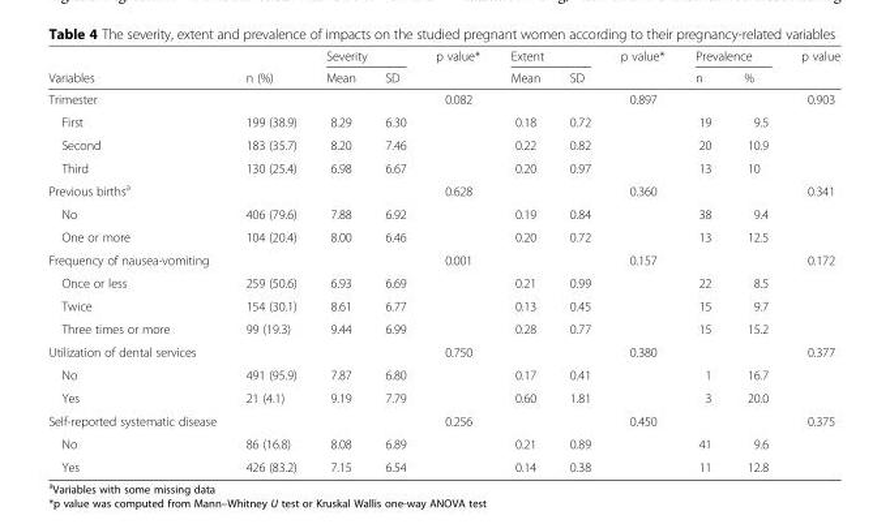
<table><thead><tr><td rowspan="2">Variables</td><td rowspan="2">n (%)</td><td colspan="2">Severity</td><td rowspan="2">p value*</td><td colspan="2">Extent</td><td rowspan="2">p value*</td><td colspan="2">Prevalence</td><td rowspan="2">p value</td></tr><tr><td>Mean</td><td>SD</td><td>Mean</td><td>SD</td><td>n</td><td>%</td></tr></thead><tbody><tr><td>Trimester</td><td></td><td></td><td></td><td>0.082</td><td></td><td></td><td>0.897</td><td></td><td></td><td>0.903</td></tr><tr><td>First</td><td>199 (38.9)</td><td>8.29</td><td>6.30</td><td></td><td>0.18</td><td>0.72</td><td></td><td>19</td><td>9.5</td><td></td></tr><tr><td>Second</td><td>183 (35.7)</td><td>8.20</td><td>7.46</td><td></td><td>0.22</td><td>0.82</td><td></td><td>20</td><td>10.9</td><td></td></tr><tr><td>Third</td><td>130 (25.4)</td><td>6.98</td><td>6.67</td><td></td><td>0.20</td><td>0.97</td><td></td><td>13</td><td>10</td><td></td></tr><tr><td>Previous births<sup>a</sup></td><td></td><td></td><td></td><td>0.628</td><td></td><td></td><td>0.360</td><td></td><td></td><td>0.341</td></tr><tr><td>No</td><td>406 (79.6)</td><td>7.88</td><td>6.92</td><td></td><td>0.19</td><td>0.84</td><td></td><td>38</td><td>9.4</td><td></td></tr><tr><td>One or more</td><td>104 (20.4)</td><td>8.00</td><td>6.46</td><td></td><td>0.20</td><td>0.72</td><td></td><td>13</td><td>12.5</td><td></td></tr><tr><td>Frequency of nausea-vomiting</td><td></td><td></td><td></td><td>0.001</td><td></td><td></td><td>0.157</td><td></td><td></td><td>0.172</td></tr><tr><td>Once or less</td><td>259 (50.6)</td><td>6.93</td><td>6.69</td><td></td><td>0.21</td><td>0.99</td><td></td><td>22</td><td>8.5</td><td></td></tr><tr><td>Twice</td><td>154 (30.1)</td><td>8.61</td><td>6.77</td><td></td><td>0.13</td><td>0.45</td><td></td><td>15</td><td>9.7</td><td></td></tr><tr><td>Three times or more</td><td>99 (19.3)</td><td>9.44</td><td>6.99</td><td></td><td>0.28</td><td>0.77</td><td></td><td>15</td><td>15.2</td><td></td></tr><tr><td>Utilization of dental services</td><td></td><td></td><td></td><td>0.750</td><td></td><td></td><td>0.380</td><td></td><td></td><td>0.377</td></tr><tr><td>No</td><td>491 (95.9)</td><td>7.87</td><td>6.80</td><td></td><td>0.17</td><td>0.41</td><td></td><td>1</td><td>16.7</td><td></td></tr><tr><td>Yes</td><td>21 (4.1)</td><td>9.19</td><td>7.79</td><td></td><td>0.60</td><td>1.81</td><td></td><td>3</td><td>20.0</td><td></td></tr><tr><td>Self-reported systematic disease</td><td></td><td></td><td></td><td>0.256</td><td></td><td></td><td>0.450</td><td></td><td></td><td>0.375</td></tr><tr><td>No</td><td>86 (16.8)</td><td>8.08</td><td>6.89</td><td></td><td>0.21</td><td>0.89</td><td></td><td>41</td><td>9.6</td><td></td></tr><tr><td>Yes</td><td>426 (83.2)</td><td>7.15</td><td>6.54</td><td></td><td>0.14</td><td>0.38</td><td></td><td>11</td><td>12.8</td><td></td></tr></tbody></table>